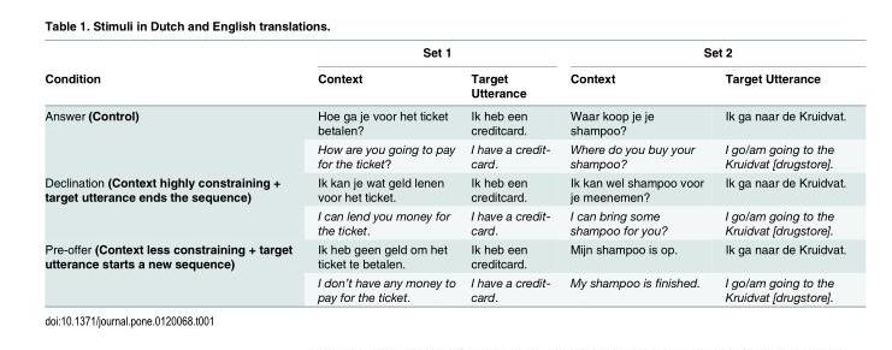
<table><thead><tr><td rowspan="2">Condition</td><td colspan="2">Set 1</td><td colspan="2">Set 2</td></tr><tr><td>Context</td><td>Target Utterance</td><td>Context</td><td>Target Utterance</td></tr></thead><tbody><tr><td rowspan="2">Answer (Control)</td><td>Hoe ga je voor het ticket betalen?</td><td>Ik heb een creditcard.</td><td>Waar koop je je shampoo?</td><td>Ik ga naar de Kruidvat.</td></tr><tr><td>How are you going to pay for the ticket?</td><td>I have a credit- card.</td><td>Where do you buy your shampoo?</td><td>I go/am going to the Kruidvat [drugstore].</td></tr><tr><td rowspan="2">Declination (Context highly constraining + target utterance ends the sequence)</td><td>Ik kan je wat geld lenen voor het ticket.</td><td>Ik heb een creditcard.</td><td>Ik kan wel shampoo voor je meenemen?</td><td>Ik ga naar de Kruidvat.</td></tr><tr><td>I can lend you money for the ticket.</td><td>I have a credit- card.</td><td>I can bring some shampoo for you?</td><td>I go/am going to the Kruidvat [drugstore].</td></tr><tr><td rowspan="2">Pre-offer (Context less constraining + target utterance starts a new sequence)</td><td>Ik heb geen geld om het ticket te betalen.</td><td>Ik heb een creditcard.</td><td>Mijn shampoo is op.</td><td>Ik ga naar de Kruidvat.</td></tr><tr><td>I don’t have any money to pay for the ticket.</td><td>I have a credit- card.</td><td>My shampoo is finished.</td><td>I go/am going to the Kruidvat [drugstore].</td></tr></tbody></table>